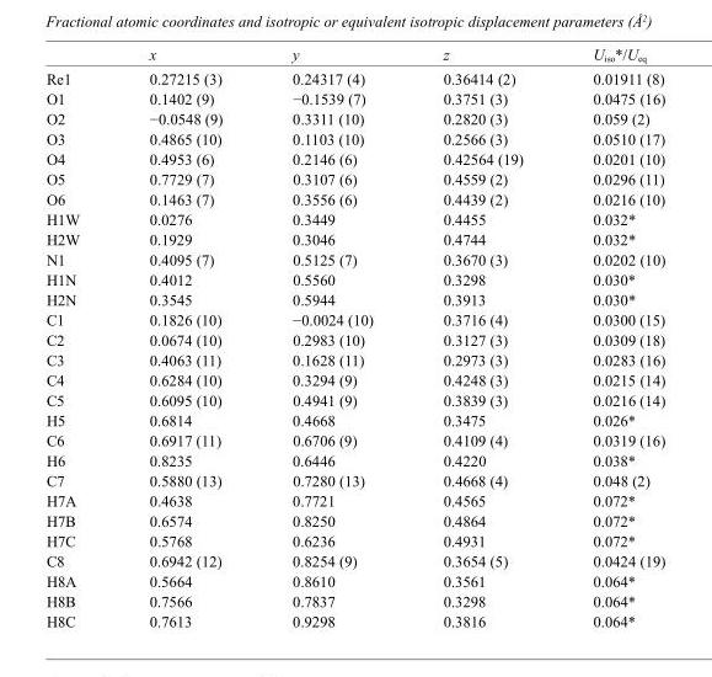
<table><thead><tr><td></td><td>x</td><td>y</td><td>z</td><td>U<sub>iso</sub>*/U<sub>eq</sub></td></tr></thead><tbody><tr><td>Re1</td><td>0.27215 (3)</td><td>0.24317 (4)</td><td>0.36414 (2)</td><td>0.01911 (8)</td></tr><tr><td>O1</td><td>0.1402 (9)</td><td>−0.1539 (7)</td><td>0.3751 (3)</td><td>0.0475 (16)</td></tr><tr><td>O2</td><td>−0.0548 (9)</td><td>0.3311 (10)</td><td>0.2820 (3)</td><td>0.059 (2)</td></tr><tr><td>O3</td><td>0.4865 (10)</td><td>0.1103 (10)</td><td>0.2566 (3)</td><td>0.0510 (17)</td></tr><tr><td>O4</td><td>0.4953 (6)</td><td>0.2146 (6)</td><td>0.42564 (19)</td><td>0.0201 (10)</td></tr><tr><td>O5</td><td>0.7729 (7)</td><td>0.3107 (6)</td><td>0.4559 (2)</td><td>0.0296 (11)</td></tr><tr><td>O6</td><td>0.1463 (7)</td><td>0.3556 (6)</td><td>0.4439 (2)</td><td>0.0216 (10)</td></tr><tr><td>H1W</td><td>0.0276</td><td>0.3449</td><td>0.4455</td><td>0.032*</td></tr><tr><td>H2W</td><td>0.1929</td><td>0.3046</td><td>0.4744</td><td>0.032*</td></tr><tr><td>N1</td><td>0.4095 (7)</td><td>0.5125 (7)</td><td>0.3670 (3)</td><td>0.0202 (10)</td></tr><tr><td>H1N</td><td>0.4012</td><td>0.5560</td><td>0.3298</td><td>0.030*</td></tr><tr><td>H2N</td><td>0.3545</td><td>0.5944</td><td>0.3913</td><td>0.030*</td></tr><tr><td>C1</td><td>0.1826 (10)</td><td>−0.0024 (10)</td><td>0.3716 (4)</td><td>0.0300 (15)</td></tr><tr><td>C2</td><td>0.0674 (10)</td><td>0.2983 (10)</td><td>0.3127 (3)</td><td>0.0309 (18)</td></tr><tr><td>C3</td><td>0.4063 (11)</td><td>0.1628 (11)</td><td>0.2973 (3)</td><td>0.0283 (16)</td></tr><tr><td>C4</td><td>0.6284 (10)</td><td>0.3294 (9)</td><td>0.4248 (3)</td><td>0.0215 (14)</td></tr><tr><td>C5</td><td>0.6095 (10)</td><td>0.4941 (9)</td><td>0.3839 (3)</td><td>0.0216 (14)</td></tr><tr><td>H5</td><td>0.6814</td><td>0.4668</td><td>0.3475</td><td>0.026*</td></tr><tr><td>C6</td><td>0.6917 (11)</td><td>0.6706 (9)</td><td>0.4109 (4)</td><td>0.0319 (16)</td></tr><tr><td>H6</td><td>0.8235</td><td>0.6446</td><td>0.4220</td><td>0.038*</td></tr><tr><td>C7</td><td>0.5880 (13)</td><td>0.7280 (13)</td><td>0.4668 (4)</td><td>0.048 (2)</td></tr><tr><td>H7A</td><td>0.4638</td><td>0.7721</td><td>0.4565</td><td>0.072*</td></tr><tr><td>H7B</td><td>0.6574</td><td>0.8250</td><td>0.4864</td><td>0.072*</td></tr><tr><td>H7C</td><td>0.5768</td><td>0.6236</td><td>0.4931</td><td>0.072*</td></tr><tr><td>C8</td><td>0.6942 (12)</td><td>0.8254 (9)</td><td>0.3654 (5)</td><td>0.0424 (19)</td></tr><tr><td>H8A</td><td>0.5664</td><td>0.8610</td><td>0.3561</td><td>0.064*</td></tr><tr><td>H8B</td><td>0.7566</td><td>0.7837</td><td>0.3298</td><td>0.064*</td></tr><tr><td>H8C</td><td>0.7613</td><td>0.9298</td><td>0.3816</td><td>0.064*</td></tr></tbody></table>